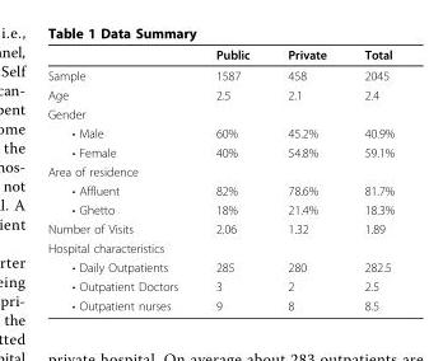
<table><thead><tr><td></td><td>Public</td><td>Private</td><td>Total</td></tr></thead><tbody><tr><td>Sample</td><td>1587</td><td>458</td><td>2045</td></tr><tr><td>Age</td><td>2.5</td><td>2.1</td><td>2.4</td></tr><tr><td colspan="4">Gender</td></tr><tr><td>• Male</td><td>60%</td><td>45.2%</td><td>40.9%</td></tr><tr><td>• Female</td><td>40%</td><td>54.8%</td><td>59.1%</td></tr><tr><td colspan="4">Area of residence</td></tr><tr><td>• Affluent</td><td>82%</td><td>78.6%</td><td>81.7%</td></tr><tr><td>• Ghetto</td><td>18%</td><td>21.4%</td><td>18.3%</td></tr><tr><td>Number of Visits</td><td>2.06</td><td>1.32</td><td>1.89</td></tr><tr><td colspan="4">Hospital characteristics</td></tr><tr><td>• Daily Outpatients</td><td>285</td><td>280</td><td>282.5</td></tr><tr><td>• Outpatient Doctors</td><td>3</td><td>2</td><td>2.5</td></tr><tr><td>• Outpatient nurses</td><td>9</td><td>8</td><td>8.5</td></tr></tbody></table>